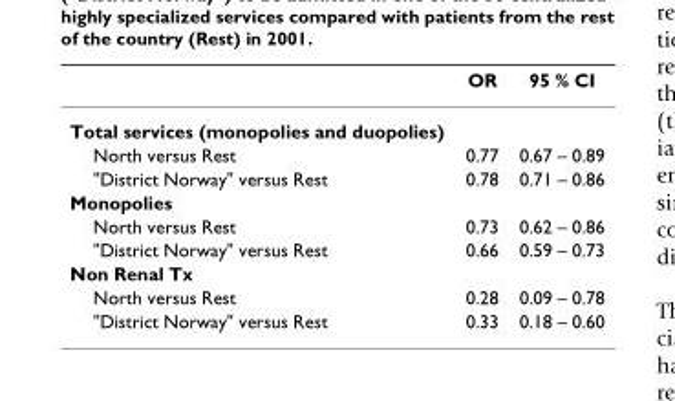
<table><thead><tr><td></td><td>OR</td><td>95 % CI</td></tr></thead><tbody><tr><td colspan="3">Total services (monopolies and duopolies)</td></tr><tr><td>North versus Rest</td><td>0.77</td><td>0.67 – 0.89</td></tr><tr><td>&quot;District Norway&quot; versus Rest</td><td>0.78</td><td>0.71 – 0.86</td></tr><tr><td colspan="3">Monopolies</td></tr><tr><td>North versus Rest</td><td>0.73</td><td>0.62 – 0.86</td></tr><tr><td>&quot;District Norway&quot; versus Rest</td><td>0.66</td><td>0.59 – 0.73</td></tr><tr><td colspan="3">Non Renal Tx</td></tr><tr><td>North versus Rest</td><td>0.28</td><td>0.09 – 0.78</td></tr><tr><td>&quot;District Norway&quot; versus Rest</td><td>0.33</td><td>0.18 – 0.60</td></tr></tbody></table>